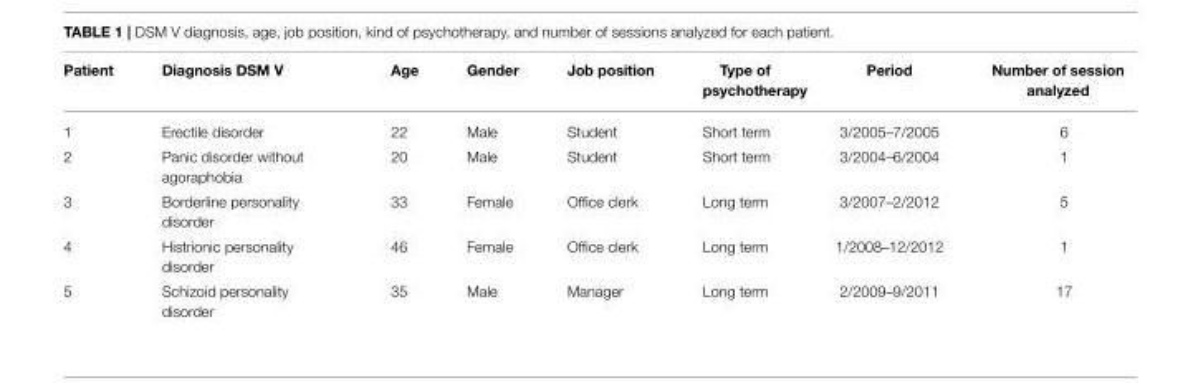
<table><thead><tr><td>Patient</td><td>Diagnosis DSM V</td><td>Age</td><td>Gender</td><td>Job position</td><td>Type of psychotherapy</td><td>Period</td><td>Number of session analyzed</td></tr></thead><tbody><tr><td>1</td><td>Erectile disorder</td><td>22</td><td>Male</td><td>Student</td><td>Short term</td><td>3/2005–7/2005</td><td>6</td></tr><tr><td>2</td><td>Panic disorder without agoraphobia</td><td>20</td><td>Male</td><td>Student</td><td>Short term</td><td>3/2004–6/2004</td><td>1</td></tr><tr><td>3</td><td>Borderline personality disorder</td><td>33</td><td>Female</td><td>Office clerk</td><td>Long term</td><td>3/2007–2/2012</td><td>5</td></tr><tr><td>4</td><td>Histrionic personality disorder</td><td>46</td><td>Female</td><td>Office clerk</td><td>Long term</td><td>1/2008–12/2012</td><td>1</td></tr><tr><td>5</td><td>Schizoid personality disorder</td><td>35</td><td>Male</td><td>Manager</td><td>Long term</td><td>2/2009–9/2011</td><td>17</td></tr></tbody></table>